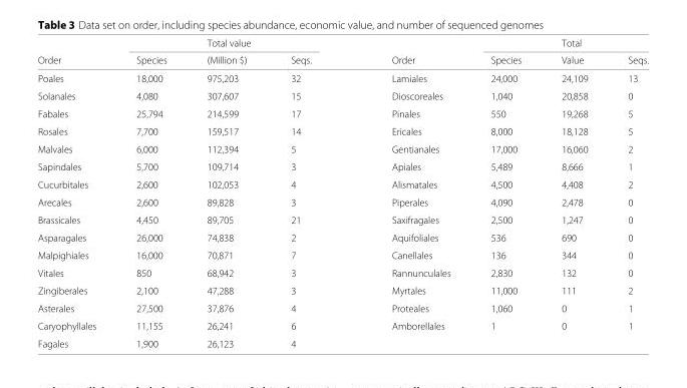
<table><thead><tr><td rowspan="2">Order</td><td rowspan="2">Species</td><td rowspan="2">Total value (Million $)</td><td rowspan="2">Seqs.</td><td rowspan="2">Order</td><td rowspan="2">Species</td><td rowspan="2">Total Value</td><td rowspan="2">Seqs.</td></tr><tr></tr></thead><tbody><tr><td>Poales</td><td>18,000</td><td>975,203</td><td>32</td><td>Lamiales</td><td>24,000</td><td>24,109</td><td>13</td></tr><tr><td>Solanales</td><td>4,080</td><td>307,607</td><td>15</td><td>Dioscoreales</td><td>1,040</td><td>20,858</td><td>0</td></tr><tr><td>Fabales</td><td>25,794</td><td>214,599</td><td>17</td><td>Pinales</td><td>550</td><td>19,268</td><td>5</td></tr><tr><td>Rosales</td><td>7,700</td><td>159,517</td><td>14</td><td>Ericales</td><td>8,000</td><td>18,128</td><td>5</td></tr><tr><td>Malvales</td><td>6,000</td><td>112,394</td><td>5</td><td>Gentianales</td><td>17,000</td><td>16,060</td><td>2</td></tr><tr><td>Sapindales</td><td>5,700</td><td>109,714</td><td>3</td><td>Apiales</td><td>5,489</td><td>8,666</td><td>1</td></tr><tr><td>Cucurbitales</td><td>2,600</td><td>102,053</td><td>4</td><td>Alismatales</td><td>4,500</td><td>4,408</td><td>2</td></tr><tr><td>Arecales</td><td>2,600</td><td>89,828</td><td>3</td><td>Piperales</td><td>4,090</td><td>2,478</td><td>0</td></tr><tr><td>Brassicales</td><td>4,450</td><td>89,705</td><td>21</td><td>Saxifragales</td><td>2,500</td><td>1,247</td><td>0</td></tr><tr><td>Asparagales</td><td>26,000</td><td>74,838</td><td>2</td><td>Aquifoliales</td><td>536</td><td>690</td><td>0</td></tr><tr><td>Malpighiales</td><td>16,000</td><td>70,871</td><td>7</td><td>Canellales</td><td>136</td><td>344</td><td>0</td></tr><tr><td>Vitales</td><td>850</td><td>68,942</td><td>3</td><td>Rannunculales</td><td>2,830</td><td>132</td><td>0</td></tr><tr><td>Zingiberales</td><td>2,100</td><td>47,288</td><td>3</td><td>Myrtales</td><td>11,000</td><td>111</td><td>2</td></tr><tr><td>Asterales</td><td>27,500</td><td>37,876</td><td>4</td><td>Proteales</td><td>1,060</td><td>0</td><td>1</td></tr><tr><td>Caryophyllales</td><td>11,155</td><td>26,241</td><td>6</td><td>Amborellales</td><td>1</td><td>0</td><td>1</td></tr><tr><td>Fagales</td><td>1,900</td><td>26,123</td><td>4</td><td></td><td></td><td></td><td></td></tr></tbody></table>